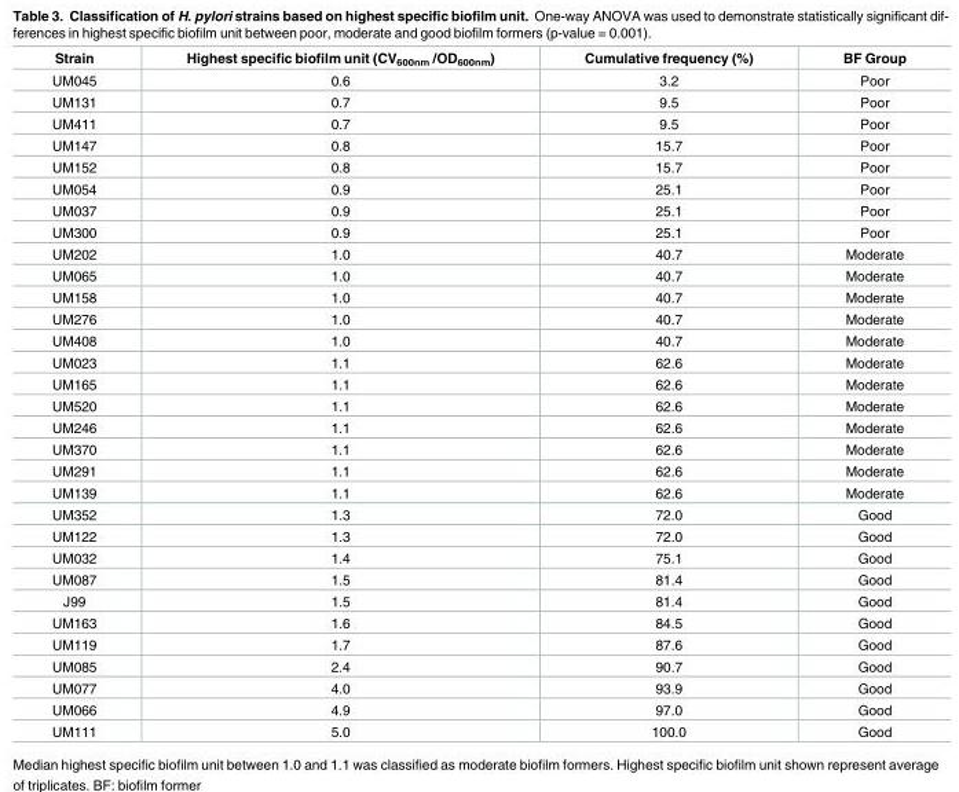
<table><thead><tr><td>Strain</td><td>Highest specific biofilm unit (CV<sub>600nm</sub> /OD<sub>600nm</sub>)</td><td>Cumulative frequency (%)</td><td>BF Group</td></tr></thead><tbody><tr><td>UM045</td><td>0.6</td><td>3.2</td><td>Poor</td></tr><tr><td>UM131</td><td>0.7</td><td>9.5</td><td>Poor</td></tr><tr><td>UM411</td><td>0.7</td><td>9.5</td><td>Poor</td></tr><tr><td>UM147</td><td>0.8</td><td>15.7</td><td>Poor</td></tr><tr><td>UM152</td><td>0.8</td><td>15.7</td><td>Poor</td></tr><tr><td>UM054</td><td>0.9</td><td>25.1</td><td>Poor</td></tr><tr><td>UM037</td><td>0.9</td><td>25.1</td><td>Poor</td></tr><tr><td>UM300</td><td>0.9</td><td>25.1</td><td>Poor</td></tr><tr><td>UM202</td><td>1.0</td><td>40.7</td><td>Moderate</td></tr><tr><td>UM065</td><td>1.0</td><td>40.7</td><td>Moderate</td></tr><tr><td>UM158</td><td>1.0</td><td>40.7</td><td>Moderate</td></tr><tr><td>UM276</td><td>1.0</td><td>40.7</td><td>Moderate</td></tr><tr><td>UM408</td><td>1.0</td><td>40.7</td><td>Moderate</td></tr><tr><td>UM023</td><td>1.1</td><td>62.6</td><td>Moderate</td></tr><tr><td>UM165</td><td>1.1</td><td>62.6</td><td>Moderate</td></tr><tr><td>UM520</td><td>1.1</td><td>62.6</td><td>Moderate</td></tr><tr><td>UM246</td><td>1.1</td><td>62.6</td><td>Moderate</td></tr><tr><td>UM370</td><td>1.1</td><td>62.6</td><td>Moderate</td></tr><tr><td>UM291</td><td>1.1</td><td>62.6</td><td>Moderate</td></tr><tr><td>UM139</td><td>1.1</td><td>62.6</td><td>Moderate</td></tr><tr><td>UM352</td><td>1.3</td><td>72.0</td><td>Good</td></tr><tr><td>UM122</td><td>1.3</td><td>72.0</td><td>Good</td></tr><tr><td>UM032</td><td>1.4</td><td>75.1</td><td>Good</td></tr><tr><td>UM087</td><td>1.5</td><td>81.4</td><td>Good</td></tr><tr><td>J99</td><td>1.5</td><td>81.4</td><td>Good</td></tr><tr><td>UM163</td><td>1.6</td><td>84.5</td><td>Good</td></tr><tr><td>UM119</td><td>1.7</td><td>87.6</td><td>Good</td></tr><tr><td>UM085</td><td>2.4</td><td>90.7</td><td>Good</td></tr><tr><td>UM077</td><td>4.0</td><td>93.9</td><td>Good</td></tr><tr><td>UM066</td><td>4.9</td><td>97.0</td><td>Good</td></tr><tr><td>UM111</td><td>5.0</td><td>100.0</td><td>Good</td></tr></tbody></table>